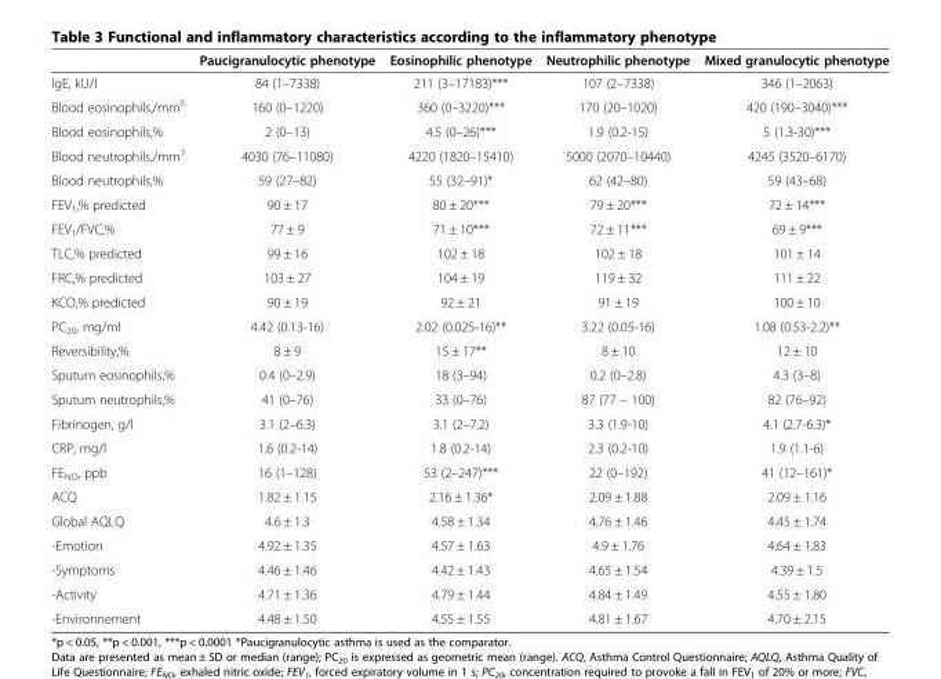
<table><thead><tr><td></td><td>Paucigranulocytic phenotype</td><td>Eosinophilic phenotype</td><td>Neutrophilic phenotype</td><td>Mixed granulocytic phenotype</td></tr></thead><tbody><tr><td>IgE, kU/l</td><td>84 (1–7338)</td><td>211 (3–17183)***</td><td>107 (2–7338)</td><td>346 (1–2063)</td></tr><tr><td>Blood eosinophils,/mm<sup>3</sup></td><td>160 (0–1220)</td><td>360 (0–3220)***</td><td>170 (20–1020)</td><td>420 (190–3040)***</td></tr><tr><td>Blood eosinophils,%</td><td>2 (0–13)</td><td>4.5 (0–26)***</td><td>1.9 (0.2-15)</td><td>5 (1.3-30)***</td></tr><tr><td>Blood neutrophils,/mm<sup>3</sup></td><td>4030 (76–11080)</td><td>4220 (1820–15410)</td><td>5000 (2070–10440)</td><td>4245 (3520–6170)</td></tr><tr><td>Blood neutrophils,%</td><td>59 (27–82)</td><td>55 (32–91)*</td><td>62 (42–80)</td><td>59 (43–68)</td></tr><tr><td>FEV<sub>1</sub>,% predicted</td><td>90 ± 17</td><td>80 ± 20***</td><td>79 ± 20***</td><td>72 ± 14***</td></tr><tr><td>FEV<sub>1</sub>/FVC,%</td><td>77 ± 9</td><td>71 ± 10***</td><td>72 ± 11***</td><td>69 ± 9***</td></tr><tr><td>TLC,% predicted</td><td>99 ± 16</td><td>102 ± 18</td><td>102 ± 18</td><td>101 ± 14</td></tr><tr><td>FRC,% predicted</td><td>103 ± 27</td><td>104 ± 19</td><td>119 ± 32</td><td>111 ± 22</td></tr><tr><td>KCO,% predicted</td><td>90 ± 19</td><td>92 ± 21</td><td>91 ± 19</td><td>100 ± 10</td></tr><tr><td>PC<sub>20</sub>, mg/ml</td><td>4.42 (0.13-16)</td><td>2.02 (0.025-16)**</td><td>3.22 (0.05-16)</td><td>1.08 (0.53-2.2)**</td></tr><tr><td>Reversibility,%</td><td>8 ± 9</td><td>15 ± 17**</td><td>8 ± 10</td><td>12 ± 10</td></tr><tr><td>Sputum eosinophils,%</td><td>0.4 (0–2.9)</td><td>18 (3–94)</td><td>0.2 (0–2.8)</td><td>4.3 (3–8)</td></tr><tr><td>Sputum neutrophils,%</td><td>41 (0–76)</td><td>33 (0–76)</td><td>87 (77 – 100)</td><td>82 (76–92)</td></tr><tr><td>Fibrinogen, g/l</td><td>3.1 (2–6.3)</td><td>3.1 (2–7.2)</td><td>3.3 (1.9-10)</td><td>4.1 (2.7-6.3)*</td></tr><tr><td>CRP, mg/l</td><td>1.6 (0.2-14)</td><td>1.8 (0.2-14)</td><td>2.3 (0.2-10)</td><td>1.9 (1.1-6)</td></tr><tr><td>FE<sub>NO</sub>, ppb</td><td>16 (1–128)</td><td>53 (2–247)***</td><td>22 (0–192)</td><td>41 (12–161)*</td></tr><tr><td>ACQ</td><td>1.82 ± 1.15</td><td>2.16 ± 1.36*</td><td>2.09 ± 1.88</td><td>2.09 ± 1.16</td></tr><tr><td>Global AQLQ</td><td>4.6 ± 1.3</td><td>4.58 ± 1.34</td><td>4.76 ± 1.46</td><td>4.45 ± 1.74</td></tr><tr><td>-Emotion</td><td>4.92 ± 1.35</td><td>4.57 ± 1.63</td><td>4.9 ± 1.76</td><td>4.64 ± 1.83</td></tr><tr><td>-Symptoms</td><td>4.46 ± 1.46</td><td>4.42 ± 1.43</td><td>4.65 ± 1.54</td><td>4.39 ± 1.5</td></tr><tr><td>-Activity</td><td>4.71 ± 1.36</td><td>4.79 ± 1.44</td><td>4.84 ± 1.49</td><td>4.55 ± 1.80</td></tr><tr><td>-Environnement</td><td>4.48 ± 1.50</td><td>4.55 ± 1.55</td><td>4.81 ± 1.67</td><td>4.70 ± 2.15</td></tr></tbody></table>